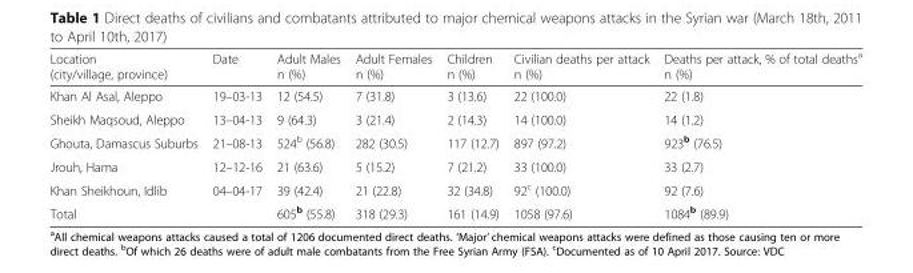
<table><thead><tr><td>Location (city/village, province)</td><td>Date</td><td>Adult Males n (%)</td><td>Adult Females n (%)</td><td>Children n (%)</td><td>Civilian deaths per attack n (%)</td><td>Deaths per attack, % of total deaths<sup>a</sup> n (%)</td></tr></thead><tbody><tr><td>Khan Al Asal, Aleppo</td><td>19–03-13</td><td>12 (54.5)</td><td>7 (31.8)</td><td>3 (13.6)</td><td>22 (100.0)</td><td>22 (1.8)</td></tr><tr><td>Sheikh Maqsoud, Aleppo</td><td>13–04-13</td><td>9 (64.3)</td><td>3 (21.4)</td><td>2 (14.3)</td><td>14 (100.0)</td><td>14 (1.2)</td></tr><tr><td>Ghouta, Damascus Suburbs</td><td>21–08-13</td><td>524<sup>b</sup> (56.8)</td><td>282 (30.5)</td><td>117 (12.7)</td><td>897 (97.2)</td><td>923<sup>b</sup> (76.5)</td></tr><tr><td>Jrouh, Hama</td><td>12–12-16</td><td>21 (63.6)</td><td>5 (15.2)</td><td>7 (21.2)</td><td>33 (100.0)</td><td>33 (2.7)</td></tr><tr><td>Khan Sheikhoun, Idlib</td><td>04–04-17</td><td>39 (42.4)</td><td>21 (22.8)</td><td>32 (34.8)</td><td>92<sup>c</sup> (100.0)</td><td>92 (7.6)</td></tr><tr><td>Total</td><td></td><td>605<sup>b</sup> (55.8)</td><td>318 (29.3)</td><td>161 (14.9)</td><td>1058 (97.6)</td><td>1084<sup>b</sup> (89.9)</td></tr></tbody></table>